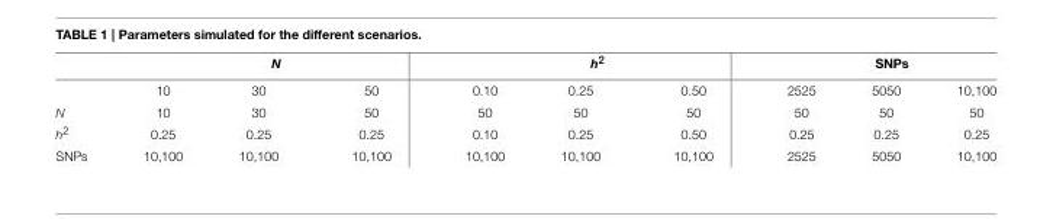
<table><thead><tr><td colspan="4">N</td><td colspan="3">h<sup>2</sup></td><td colspan="3">SNPs</td></tr><tr><td></td><td>10</td><td>30</td><td>50</td><td>0.10</td><td>0.25</td><td>0.50</td><td>2525</td><td>5050</td><td>10,100</td></tr></thead><tbody><tr><td>N</td><td>10</td><td>30</td><td>50</td><td>50</td><td>50</td><td>50</td><td>50</td><td>50</td><td>50</td></tr><tr><td>h<sup>2</sup></td><td>0.25</td><td>0.25</td><td>0.25</td><td>0.10</td><td>0.25</td><td>0.50</td><td>0.25</td><td>0.25</td><td>0.25</td></tr><tr><td>SNPs</td><td>10,100</td><td>10,100</td><td>10,100</td><td>10,100</td><td>10,100</td><td>10,100</td><td>2525</td><td>5050</td><td>10,100</td></tr></tbody></table>